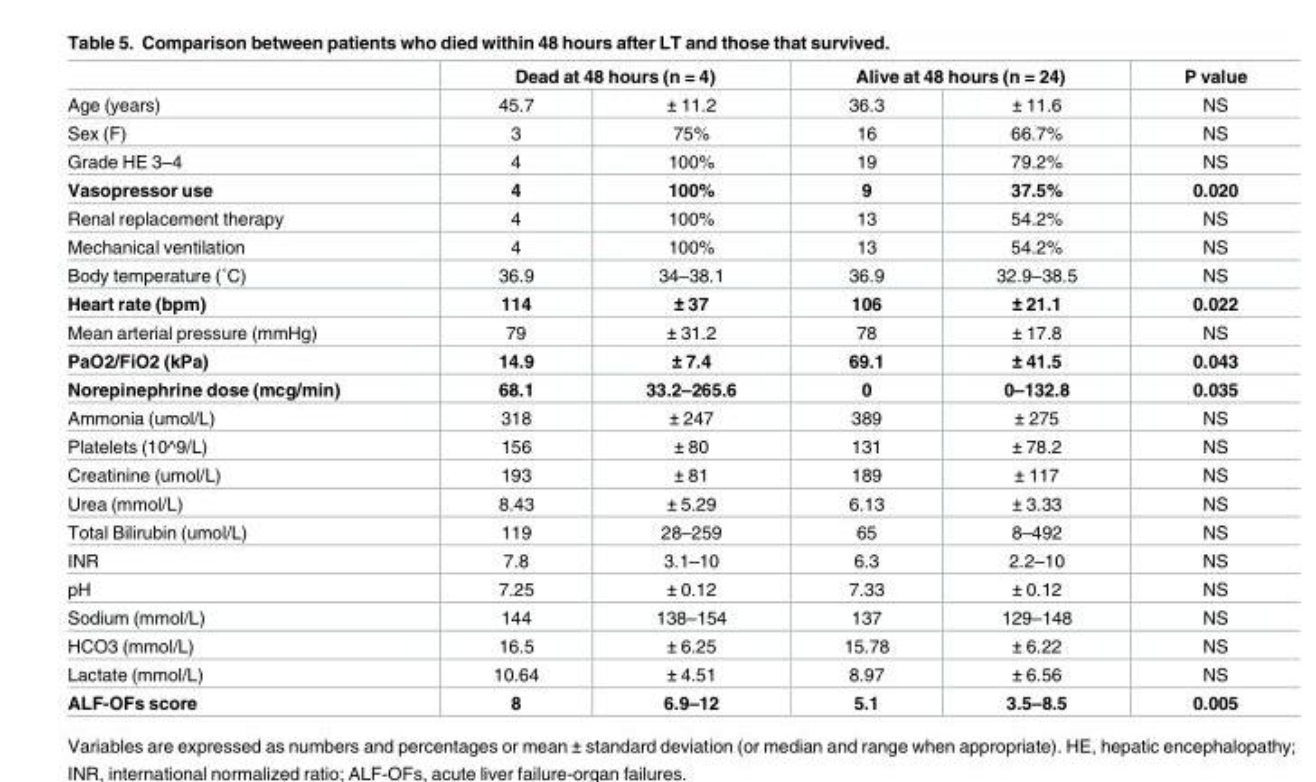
<table><thead><tr><td rowspan="2">Age (years)</td><td colspan="2">Dead at 48 hours (n = 4)</td><td colspan="2">Alive at 48 hours (n = 24)</td><td rowspan="2">P value NS</td></tr><tr><td>45.7</td><td>± 11.2</td><td>36.3</td><td>± 11.6</td></tr></thead><tbody><tr><td>Sex (F)</td><td>3</td><td>75%</td><td>16</td><td>66.7%</td><td>NS</td></tr><tr><td>Grade HE 3–4</td><td>4</td><td>100%</td><td>19</td><td>79.2%</td><td>NS</td></tr><tr><td>Vasopressor use</td><td>4</td><td>100%</td><td>9</td><td>37.5%</td><td>0.020</td></tr><tr><td>Renal replacement therapy</td><td>4</td><td>100%</td><td>13</td><td>54.2%</td><td>NS</td></tr><tr><td>Mechanical ventilation</td><td>4</td><td>100%</td><td>13</td><td>54.2%</td><td>NS</td></tr><tr><td>Body temperature (˚C)</td><td>36.9</td><td>34–38.1</td><td>36.9</td><td>32.9–38.5</td><td>NS</td></tr><tr><td>Heart rate (bpm)</td><td>114</td><td>± 37</td><td>106</td><td>± 21.1</td><td>0.022</td></tr><tr><td>Mean arterial pressure (mmHg)</td><td>79</td><td>± 31.2</td><td>78</td><td>± 17.8</td><td>NS</td></tr><tr><td>PaO2/FiO2 (kPa)</td><td>14.9</td><td>± 7.4</td><td>69.1</td><td>± 41.5</td><td>0.043</td></tr><tr><td>Norepinephrine dose (mcg/min)</td><td>68.1</td><td>33.2–265.6</td><td>0</td><td>0–132.8</td><td>0.035</td></tr><tr><td>Ammonia (umol/L)</td><td>318</td><td>± 247</td><td>389</td><td>± 275</td><td>NS</td></tr><tr><td>Platelets (10^9/L)</td><td>156</td><td>± 80</td><td>131</td><td>± 78.2</td><td>NS</td></tr><tr><td>Creatinine (umol/L)</td><td>193</td><td>± 81</td><td>189</td><td>± 117</td><td>NS</td></tr><tr><td>Urea (mmol/L)</td><td>8.43</td><td>± 5.29</td><td>6.13</td><td>± 3.33</td><td>NS</td></tr><tr><td>Total Bilirubin (umol/L)</td><td>119</td><td>28–259</td><td>65</td><td>8–492</td><td>NS</td></tr><tr><td>INR</td><td>7.8</td><td>3.1–10</td><td>6.3</td><td>2.2–10</td><td>NS</td></tr><tr><td>pH</td><td>7.25</td><td>± 0.12</td><td>7.33</td><td>± 0.12</td><td>NS</td></tr><tr><td>Sodium (mmol/L)</td><td>144</td><td>138–154</td><td>137</td><td>129–148</td><td>NS</td></tr><tr><td>HCO3 (mmol/L)</td><td>16.5</td><td>± 6.25</td><td>15.78</td><td>± 6.22</td><td>NS</td></tr><tr><td>Lactate (mmol/L)</td><td>10.64</td><td>± 4.51</td><td>8.97</td><td>± 6.56</td><td>NS</td></tr><tr><td>ALF-OFs score</td><td>8</td><td>6.9–12</td><td>5.1</td><td>3.5–8.5</td><td>0.005</td></tr></tbody></table>